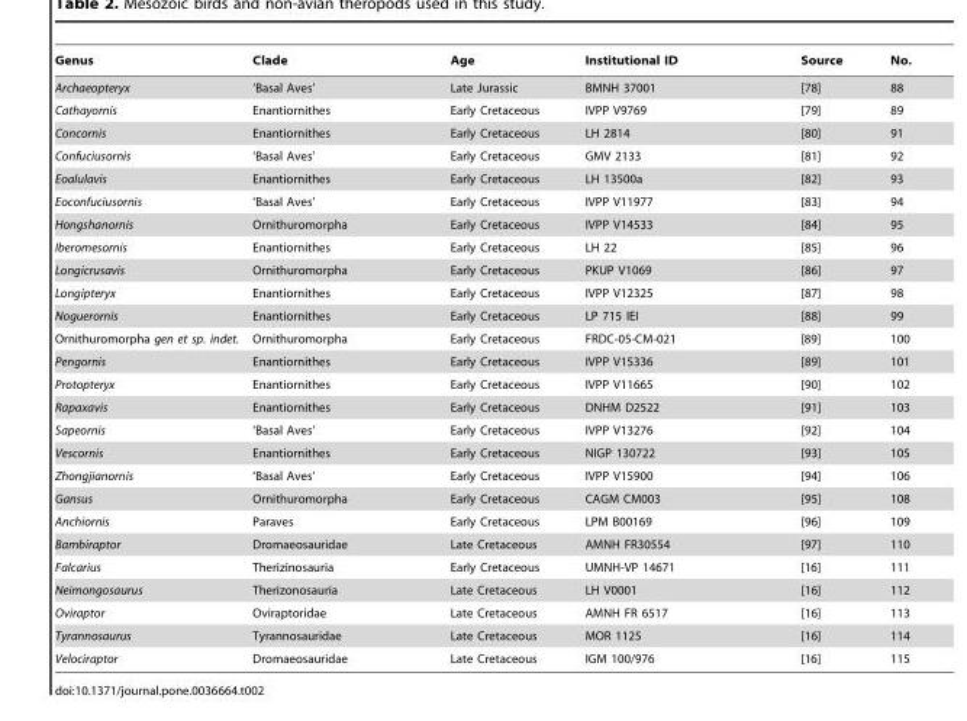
<table><thead><tr><td>Genus</td><td>Clade</td><td>Age</td><td>Institutional ID</td><td>Source</td><td>No.</td></tr></thead><tbody><tr><td>Archaeopteryx</td><td>‘Basal Aves’</td><td>Late Jurassic</td><td>BMNH 37001</td><td>[78]</td><td>88</td></tr><tr><td>Cathayornis</td><td>Enantiornithes</td><td>Early Cretaceous</td><td>IVPP V9769</td><td>[79]</td><td>89</td></tr><tr><td>Concornis</td><td>Enantiornithes</td><td>Early Cretaceous</td><td>LH 2814</td><td>[80]</td><td>91</td></tr><tr><td>Confuciusornis</td><td>‘Basal Aves’</td><td>Early Cretaceous</td><td>GMV 2133</td><td>[81]</td><td>92</td></tr><tr><td>Eoalulavis</td><td>Enantiornithes</td><td>Early Cretaceous</td><td>LH 13500a</td><td>[82]</td><td>93</td></tr><tr><td>Eoconfuciusornis</td><td>‘Basal Aves’</td><td>Early Cretaceous</td><td>IVPP V11977</td><td>[83]</td><td>94</td></tr><tr><td>Hongshanornis</td><td>Ornithuromorpha</td><td>Early Cretaceous</td><td>IVPP V14533</td><td>[84]</td><td>95</td></tr><tr><td>Iberomesornis</td><td>Enantiornithes</td><td>Early Cretaceous</td><td>LH 22</td><td>[85]</td><td>96</td></tr><tr><td>Longicrusavis</td><td>Ornithuromorpha</td><td>Early Cretaceous</td><td>PKUP V1069</td><td>[86]</td><td>97</td></tr><tr><td>Longipteryx</td><td>Enantiornithes</td><td>Early Cretaceous</td><td>IVPP V12325</td><td>[87]</td><td>98</td></tr><tr><td>Noguerornis</td><td>Enantiornithes</td><td>Early Cretaceous</td><td>LP 715 IEI</td><td>[88]</td><td>99</td></tr><tr><td>Ornithuromorpha gen et sp. indet.</td><td>Ornithuromorpha</td><td>Early Cretaceous</td><td>FRDC-05-CM-021</td><td>[89]</td><td>100</td></tr><tr><td>Pengornis</td><td>Enantiornithes</td><td>Early Cretaceous</td><td>IVPP V15336</td><td>[89]</td><td>101</td></tr><tr><td>Protopteryx</td><td>Enantiornithes</td><td>Early Cretaceous</td><td>IVPP V11665</td><td>[90]</td><td>102</td></tr><tr><td>Rapaxavis</td><td>Enantiornithes</td><td>Early Cretaceous</td><td>DNHM D2522</td><td>[91]</td><td>103</td></tr><tr><td>Sapeornis</td><td>‘Basal Aves’</td><td>Early Cretaceous</td><td>IVPP V13276</td><td>[92]</td><td>104</td></tr><tr><td>Vescornis</td><td>Enantiornithes</td><td>Early Cretaceous</td><td>NIGP 130722</td><td>[93]</td><td>105</td></tr><tr><td>Zhongjianornis</td><td>‘Basal Aves’</td><td>Early Cretaceous</td><td>IVPP V15900</td><td>[94]</td><td>106</td></tr><tr><td>Gansus</td><td>Ornithuromorpha</td><td>Early Cretaceous</td><td>CAGM CM003</td><td>[95]</td><td>108</td></tr><tr><td>Anchiornis</td><td>Paraves</td><td>Early Cretaceous</td><td>LPM B00169</td><td>[96]</td><td>109</td></tr><tr><td>Bambiraptor</td><td>Dromaeosauridae</td><td>Late Cretaceous</td><td>AMNH FR30554</td><td>[97]</td><td>110</td></tr><tr><td>Falcarius</td><td>Therizinosauria</td><td>Early Cretaceous</td><td>UMNH-VP 14671</td><td>[16]</td><td>111</td></tr><tr><td>Neimongosaurus</td><td>Therizonosauria</td><td>Late Cretaceous</td><td>LH V0001</td><td>[16]</td><td>112</td></tr><tr><td>Oviraptor</td><td>Oviraptoridae</td><td>Late Cretaceous</td><td>AMNH FR 6517</td><td>[16]</td><td>113</td></tr><tr><td>Tyrannosaurus</td><td>Tyrannosauridae</td><td>Late Cretaceous</td><td>MOR 1125</td><td>[16]</td><td>114</td></tr><tr><td>Velociraptor</td><td>Dromaeosauridae</td><td>Late Cretaceous</td><td>IGM 100/976</td><td>[16]</td><td>115</td></tr></tbody></table>